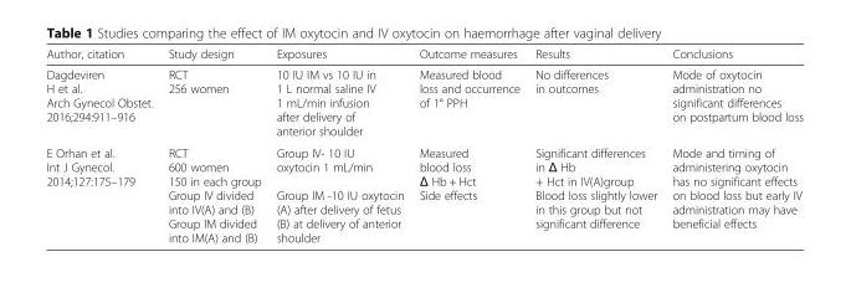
<table><thead><tr><td>Author, citation</td><td>Study design</td><td>Exposures</td><td>Outcome measures</td><td>Results</td><td>Conclusions</td></tr></thead><tbody><tr><td>Dagdeviren H et al. Arch Gynecol Obstet. 2016;294:911–916</td><td>RCT 256 women</td><td>10 IU IM vs 10 IU in 1 L normal saline IV 1 mL/min infusion after delivery of anterior shoulder</td><td>Measured blood loss and occurrence of 1° PPH</td><td>No differences in outcomes</td><td>Mode of oxytocin administration no significant differences on postpartum blood loss</td></tr><tr><td>E Orhan et al. Int J Gynecol. 2014;127:175–179</td><td>RCT 600 women 150 in each group Group IV divided into IV(A) and (B) Group IM divided into IM(A) and (B)</td><td>Group IV- 10 IU oxytocin 1 mL/min Group IM -10 IU oxytocin (A) after delivery of fetus (B) at delivery of anterior shoulder</td><td>Measured blood loss Δ Hb + Hct Side effects</td><td>Significant differences in Δ Hb + Hct in IV(A)group Blood loss slightly lower in this group but not significant difference</td><td>Mode and timing of administering oxytocin has no significant effects on blood loss but early IV administration may have beneficial effects</td></tr></tbody></table>